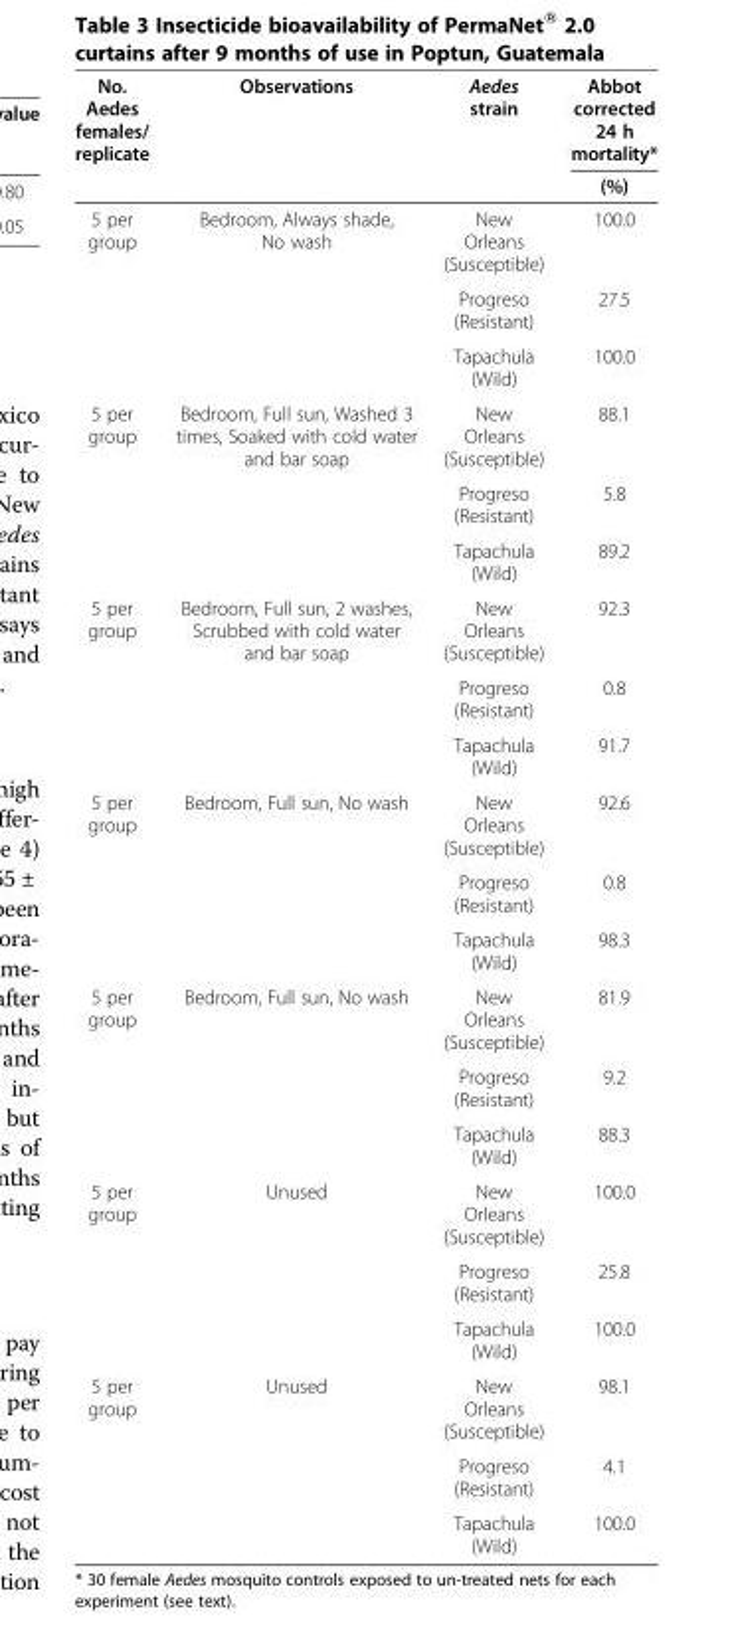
<table><thead><tr><td rowspan="2">No. Aedes females/ replicate</td><td rowspan="2">Observations</td><td rowspan="2">Aedes strain</td><td rowspan="2">Abbot corrected 24 h mortality* (%)</td></tr><tr></tr></thead><tbody><tr><td rowspan="3">5 per group</td><td>Bedroom, Always shade, No wash</td><td>New Orleans (Susceptible)</td><td>100.0</td></tr><tr><td></td><td>Progreso (Resistant)</td><td>27.5</td></tr><tr><td></td><td>Tapachula (Wild)</td><td>100.0</td></tr><tr><td rowspan="3">5 per group</td><td>Bedroom, Full sun, Washed 3 times, Soaked with cold water and bar soap</td><td>New Orleans (Susceptible)</td><td>88.1</td></tr><tr><td></td><td>Progreso (Resistant)</td><td>5.8</td></tr><tr><td></td><td>Tapachula (Wild)</td><td>89.2</td></tr><tr><td rowspan="3">5 per group</td><td>Bedroom, Full sun, 2 washes, Scrubbed with cold water and bar soap</td><td>New Orleans (Susceptible)</td><td>92.3</td></tr><tr><td></td><td>Progreso (Resistant)</td><td>0.8</td></tr><tr><td></td><td>Tapachula (Wild)</td><td>91.7</td></tr><tr><td rowspan="3">5 per group</td><td>Bedroom, Full sun, No wash</td><td>New Orleans (Susceptible)</td><td>92.6</td></tr><tr><td></td><td>Progreso (Resistant)</td><td>0.8</td></tr><tr><td></td><td>Tapachula (Wild)</td><td>98.3</td></tr><tr><td rowspan="3">5 per group</td><td>Bedroom, Full sun, No wash</td><td>New Orleans (Susceptible)</td><td>81.9</td></tr><tr><td></td><td>Progreso (Resistant)</td><td>9.2</td></tr><tr><td></td><td>Tapachula (Wild)</td><td>88.3</td></tr><tr><td rowspan="3">5 per group</td><td>Unused</td><td>New Orleans (Susceptible)</td><td>100.0</td></tr><tr><td></td><td>Progreso (Resistant)</td><td>25.8</td></tr><tr><td></td><td>Tapachula (Wild)</td><td>100.0</td></tr><tr><td rowspan="3">5 per group</td><td>Unused</td><td>New Orleans (Susceptible)</td><td>98.1</td></tr><tr><td></td><td>Progreso (Resistant)</td><td>4.1</td></tr><tr><td></td><td>Tapachula (Wild)</td><td>100.0</td></tr></tbody></table>